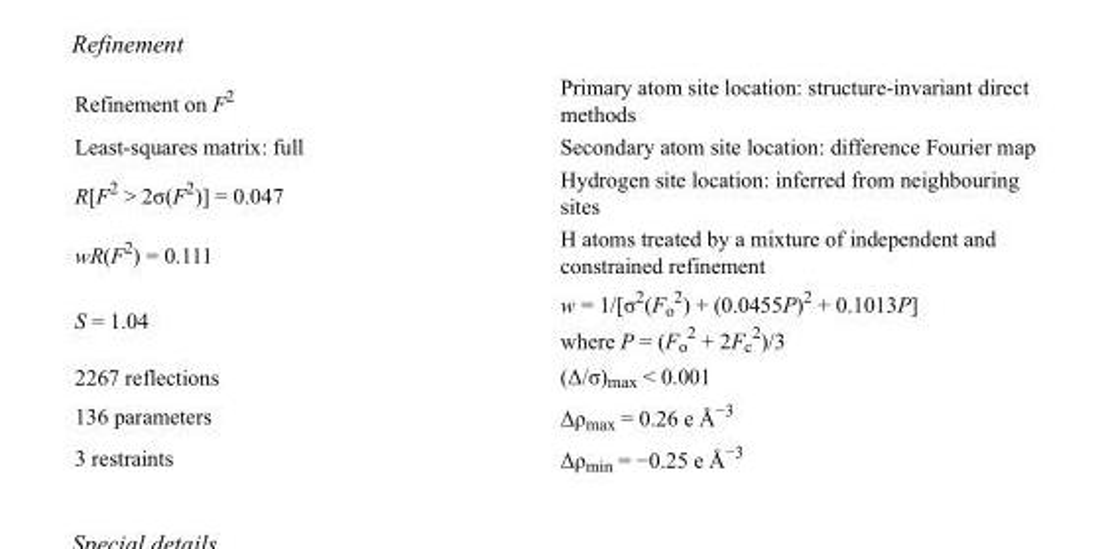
<table><tbody><tr><td>Refinement on F<sup>2</sup></td><td>Primary atom site location: structure-invariant direct methods</td></tr><tr><td>Least-squares matrix: full</td><td>Secondary atom site location: difference Fourier map</td></tr><tr><td>R[F<sup>2</sup> &gt; 2σ(F<sup>2</sup>)] = 0.047</td><td>Hydrogen site location: inferred from neighbouring sites</td></tr><tr><td>wR(F<sup>2</sup>) = 0.111</td><td>H atoms treated by a mixture of independent and constrained refinement</td></tr><tr><td>S = 1.04</td><td>w = 1/[σ<sup>2</sup>(F<sub>o</sub> <sup>2</sup>) + (0.0455P)<sup>2</sup> + 0.1013P] where P = (F<sub>o</sub> <sup>2</sup> + 2F<sub>c</sub> <sup>2</sup>)/3</td></tr><tr><td>2267 reflections</td><td>(Δ/σ)<sub>max</sub> &lt; 0.001</td></tr><tr><td>136 parameters</td><td>Δρ<sub>max</sub> = 0.26 e Å<sup>−3</sup></td></tr><tr><td>3 restraints</td><td>Δρ<sub>min</sub> = −0.25 e Å<sup>−3</sup></td></tr></tbody></table>